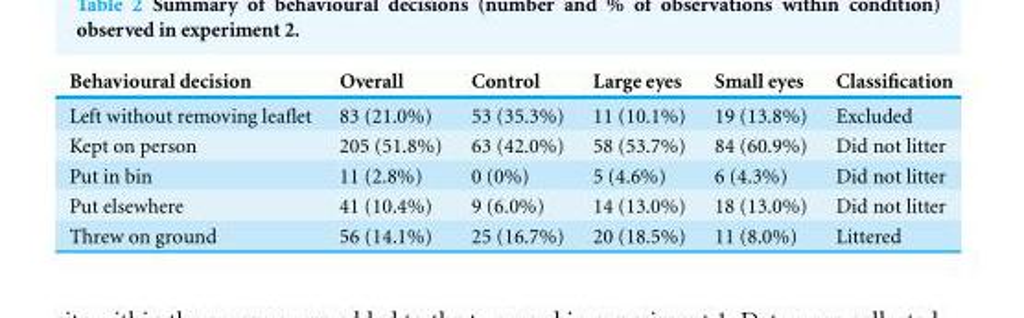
<table><thead><tr><td>Behavioural decision</td><td>Overall</td><td>Control</td><td>Large eyes</td><td>Small eyes</td><td>Classification</td></tr></thead><tbody><tr><td>Left without removing leaflet</td><td>83 (21.0%)</td><td>53 (35.3%)</td><td>11 (10.1%)</td><td>19 (13.8%)</td><td>Excluded</td></tr><tr><td>Kept on person</td><td>205 (51.8%)</td><td>63 (42.0%)</td><td>58 (53.7%)</td><td>84 (60.9%)</td><td>Did not litter</td></tr><tr><td>Put in bin</td><td>11 (2.8%)</td><td>0 (0%)</td><td>5 (4.6%)</td><td>6 (4.3%)</td><td>Did not litter</td></tr><tr><td>Put elsewhere</td><td>41 (10.4%)</td><td>9 (6.0%)</td><td>14 (13.0%)</td><td>18 (13.0%)</td><td>Did not litter</td></tr><tr><td>Threw on ground</td><td>56 (14.1%)</td><td>25 (16.7%)</td><td>20 (18.5%)</td><td>11 (8.0%)</td><td>Littered</td></tr></tbody></table>